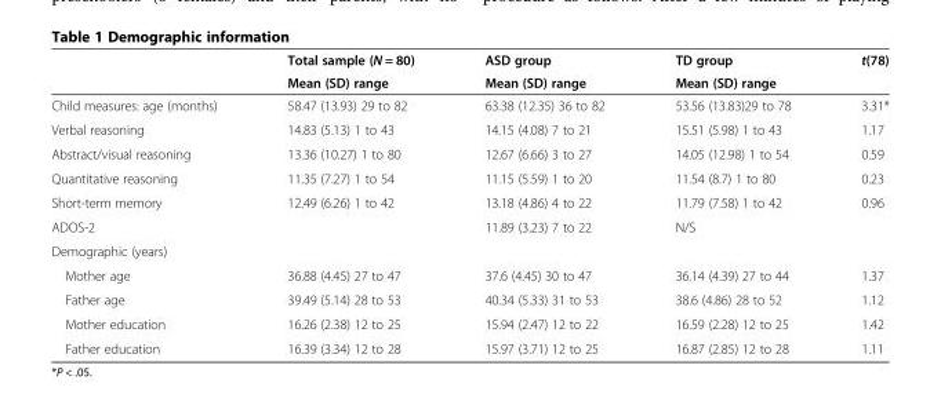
<table><thead><tr><td rowspan="2"></td><td rowspan="2">Total sample (N = 80) Mean (SD) range</td><td rowspan="2">ASD group Mean (SD) range</td><td rowspan="2">TD group Mean (SD) range</td><td rowspan="2">t(78)</td></tr><tr></tr></thead><tbody><tr><td>Child measures: age (months)</td><td>58.47 (13.93) 29 to 82</td><td>63.38 (12.35) 36 to 82</td><td>53.56 (13.83)29 to 78</td><td>3.31*</td></tr><tr><td>Verbal reasoning</td><td>14.83 (5.13) 1 to 43</td><td>14.15 (4.08) 7 to 21</td><td>15.51 (5.98) 1 to 43</td><td>1.17</td></tr><tr><td>Abstract/visual reasoning</td><td>13.36 (10.27) 1 to 80</td><td>12.67 (6.66) 3 to 27</td><td>14.05 (12.98) 1 to 54</td><td>0.59</td></tr><tr><td>Quantitative reasoning</td><td>11.35 (7.27) 1 to 54</td><td>11.15 (5.59) 1 to 20</td><td>11.54 (8.7) 1 to 80</td><td>0.23</td></tr><tr><td>Short-term memory</td><td>12.49 (6.26) 1 to 42</td><td>13.18 (4.86) 4 to 22</td><td>11.79 (7.58) 1 to 42</td><td>0.96</td></tr><tr><td>ADOS-2</td><td></td><td>11.89 (3.23) 7 to 22</td><td>N/S</td><td></td></tr><tr><td colspan="5">Demographic (years)</td></tr><tr><td>Mother age</td><td>36.88 (4.45) 27 to 47</td><td>37.6 (4.45) 30 to 47</td><td>36.14 (4.39) 27 to 44</td><td>1.37</td></tr><tr><td>Father age</td><td>39.49 (5.14) 28 to 53</td><td>40.34 (5.33) 31 to 53</td><td>38.6 (4.86) 28 to 52</td><td>1.12</td></tr><tr><td>Mother education</td><td>16.26 (2.38) 12 to 25</td><td>15.94 (2.47) 12 to 22</td><td>16.59 (2.28) 12 to 25</td><td>1.42</td></tr><tr><td>Father education</td><td>16.39 (3.34) 12 to 28</td><td>15.97 (3.71) 12 to 25</td><td>16.87 (2.85) 12 to 28</td><td>1.11</td></tr></tbody></table>